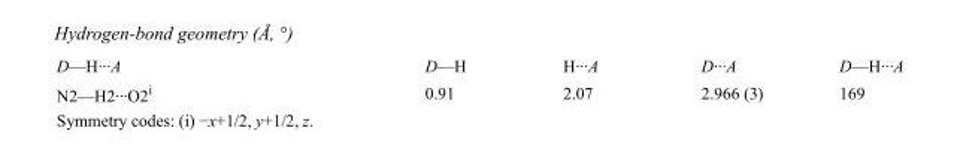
<table><tbody><tr><td>D—H···A</td><td>D—H</td><td>H···A</td><td>D···A</td><td>D—H···A</td></tr><tr><td>N2—H2···O2<sup>i</sup></td><td>0.91</td><td>2.07</td><td>2.966 (3)</td><td>169</td></tr></tbody></table>